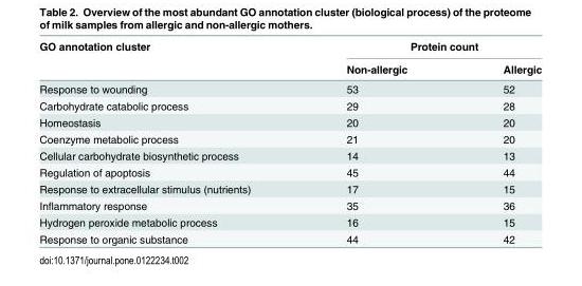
<table><thead><tr><td rowspan="2">GO annotation cluster</td><td colspan="2">Protein count</td></tr><tr><td>Non-allergic</td><td>Allergic</td></tr></thead><tbody><tr><td>Response to wounding</td><td>53</td><td>52</td></tr><tr><td>Carbohydrate catabolic process</td><td>29</td><td>28</td></tr><tr><td>Homeostasis</td><td>20</td><td>20</td></tr><tr><td>Coenzyme metabolic process</td><td>21</td><td>20</td></tr><tr><td>Cellular carbohydrate biosynthetic process</td><td>14</td><td>13</td></tr><tr><td>Regulation of apoptosis</td><td>45</td><td>44</td></tr><tr><td>Response to extracellular stimulus (nutrients)</td><td>17</td><td>15</td></tr><tr><td>Inflammatory response</td><td>35</td><td>36</td></tr><tr><td>Hydrogen peroxide metabolic process</td><td>16</td><td>15</td></tr><tr><td>Response to organic substance</td><td>44</td><td>42</td></tr></tbody></table>